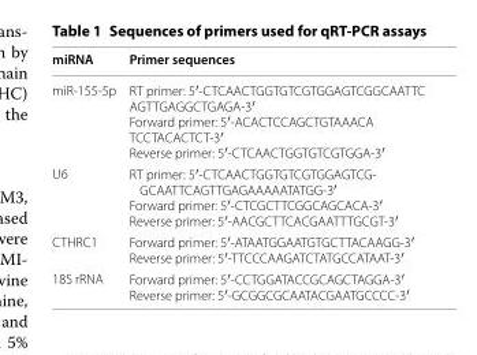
<table><thead><tr><td>miRNA</td><td>Primer sequences</td></tr></thead><tbody><tr><td>miR-155-5p</td><td>RT primer: 5′-CTCAACTGGTGTCGTGGAGTCGGCAATTC AGTTGAGGCTGAGA-3′ Forward primer: 5′-ACACTCCAGCTGTAAACA TCCTACACTCT-3′ Reverse primer: 5′-CTCAACTGGTGTCGTGGA-3′</td></tr><tr><td>U6</td><td>RT primer: 5′-CTCAACTGGTGTCGTGGAGTCG- GCAATTCAGTTGAGAAAAATATGG-3′ Forward primer: 5′-CTCGCTTCGGCAGCACA-3′ Reverse primer: 5′-AACGCTTCACGAATTTGCGT-3′</td></tr><tr><td>CTHRC1</td><td>Forward primer: 5′-ATAATGGAATGTGCTTACAAGG-3′ Reverse primer: 5′-TTCCCAAGATCTATGCCATAAT-3′</td></tr><tr><td>18S rRNA</td><td>Forward primer: 5′-CCTGGATACCGCAGCTAGGA-3′ Reverse primer: 5′-GCGGCGCAATACGAATGCCCC-3′</td></tr></tbody></table>